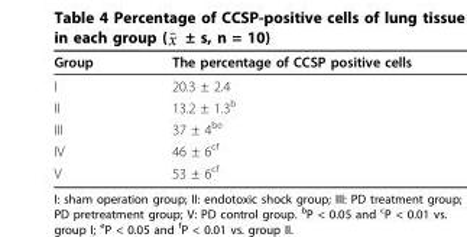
<table><thead><tr><td>Group</td><td>The percentage of CCSP positive cells</td></tr></thead><tbody><tr><td>I</td><td>20.3 ± 2.4</td></tr><tr><td>II</td><td>13.2 ± 1.3<sup>b</sup></td></tr><tr><td>III</td><td>37 ± 4<sup>be</sup></td></tr><tr><td>IV</td><td>46 ± 6<sup>cf</sup></td></tr><tr><td>V</td><td>53 ± 6<sup>cf</sup></td></tr></tbody></table>